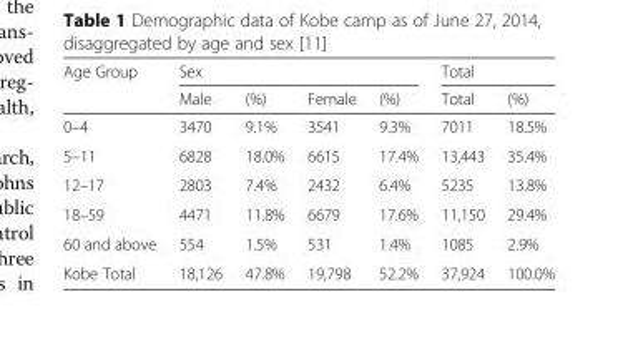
<table><thead><tr><td rowspan="2">Age Group</td><td colspan="4">Sex</td><td colspan="2">Total</td></tr><tr><td>Male</td><td>(%)</td><td>Female</td><td>(%)</td><td>Total</td><td>(%)</td></tr></thead><tbody><tr><td>0–4</td><td>3470</td><td>9.1%</td><td>3541</td><td>9.3%</td><td>7011</td><td>18.5%</td></tr><tr><td>5–11</td><td>6828</td><td>18.0%</td><td>6615</td><td>17.4%</td><td>13,443</td><td>35.4%</td></tr><tr><td>12–17</td><td>2803</td><td>7.4%</td><td>2432</td><td>6.4%</td><td>5235</td><td>13.8%</td></tr><tr><td>18–59</td><td>4471</td><td>11.8%</td><td>6679</td><td>17.6%</td><td>11,150</td><td>29.4%</td></tr><tr><td>60 and above</td><td>554</td><td>1.5%</td><td>531</td><td>1.4%</td><td>1085</td><td>2.9%</td></tr><tr><td>Kobe Total</td><td>18,126</td><td>47.8%</td><td>19,798</td><td>52.2%</td><td>37,924</td><td>100.0%</td></tr></tbody></table>